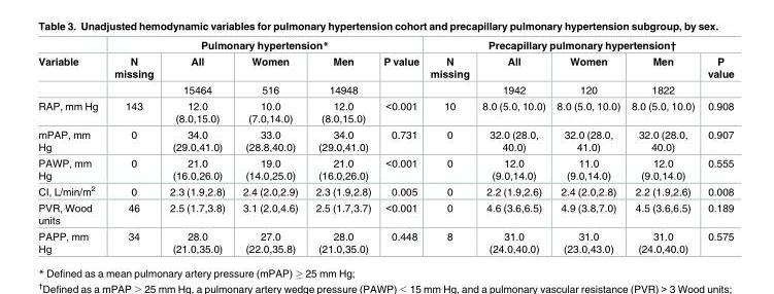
<table><thead><tr><td rowspan="2">Variable</td><td colspan="5">Pulmonary hypertension*</td><td colspan="5">Precapillary pulmonary hypertension†</td></tr><tr><td>N missing</td><td>All</td><td>Women</td><td>Men</td><td>P value</td><td>N missing</td><td>All</td><td>Women</td><td>Men</td><td>P value</td></tr></thead><tbody><tr><td></td><td></td><td>15464</td><td>516</td><td>14948</td><td></td><td></td><td>1942</td><td>120</td><td>1822</td><td></td></tr><tr><td>RAP, mm Hg</td><td>143</td><td>12.0 (8.0,15.0)</td><td>10.0 (7.0,14.0)</td><td>12.0 (8.0,15.0)</td><td>&lt;0.001</td><td>10</td><td>8.0 (5.0, 10.0)</td><td>8.0 (5.0, 10.0)</td><td>8.0 (5.0, 10.0)</td><td>0.908</td></tr><tr><td>mPAP, mm Hg</td><td>0</td><td>34.0 (29.0,41.0)</td><td>33.0 (28.8,40.0)</td><td>34.0 (29.0,41.0)</td><td>0.731</td><td>0</td><td>32.0 (28.0, 40.0)</td><td>32.0 (28.0, 41.0)</td><td>32.0 (28.0, 40.0)</td><td>0.907</td></tr><tr><td>PAWP, mm Hg</td><td>0</td><td>21.0 (16.0,26.0)</td><td>19.0 (14.0,25.0)</td><td>21.0 (16.0,26.0)</td><td>&lt;0.001</td><td>0</td><td>12.0 (9.0,14.0)</td><td>11.0 (9.0,14.0)</td><td>12.0 (9.0,14.0)</td><td>0.555</td></tr><tr><td>CI, L/min/m<sup>2</sup></td><td>0</td><td>2.3 (1.9,2.8)</td><td>2.4 (2.0,2.9)</td><td>2.3 (1.9,2.8)</td><td>0.005</td><td>0</td><td>2.2 (1.9,2.6)</td><td>2.4 (2.0,2.8)</td><td>2.2 (1.9,2.6)</td><td>0.008</td></tr><tr><td>PVR, Wood units</td><td>46</td><td>2.5 (1.7,3.8)</td><td>3.1 (2.0,4.6)</td><td>2.5 (1.7,3.7)</td><td>&lt;0.001</td><td>0</td><td>4.6 (3.6,6.5)</td><td>4.9 (3.8,7.0)</td><td>4.5 (3.6,6.5)</td><td>0.189</td></tr><tr><td>PAPP, mm Hg</td><td>34</td><td>28.0 (21.0,35.0)</td><td>27.0 (22.0,35.8)</td><td>28.0 (21.0,35.0)</td><td>0.448</td><td>8</td><td>31.0 (24.0,40.0)</td><td>31.0 (23.0,43.0)</td><td>31.0 (24.0,40.0)</td><td>0.575</td></tr></tbody></table>